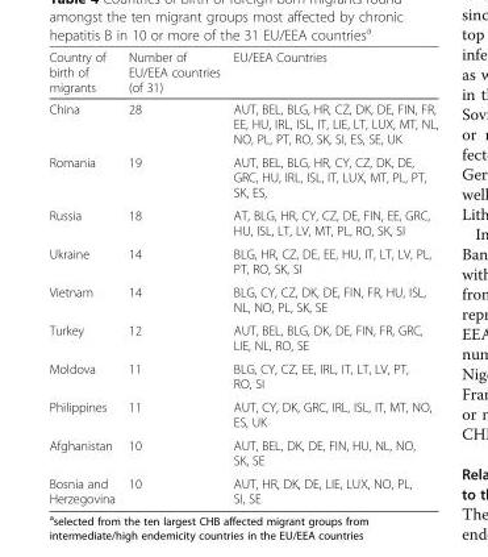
<table><thead><tr><td>Country of birth of migrants</td><td>Number of EU/EEA countries (of 31)</td><td>EU/EEA Countries</td></tr></thead><tbody><tr><td>China</td><td>28</td><td>AUT, BEL, BLG, HR, CZ, DK, DE, FIN, FR, EE, HU, IRL, ISL, IT, LIE, LT, LUX, MT, NL, NO, PL, PT, RO, SK, SI, ES, SE, UK</td></tr><tr><td>Romania</td><td>19</td><td>AUT, BEL, BLG, HR, CY, CZ, DK, DE, GRC, HU, IRL, ISL, IT, LUX, MT, PL, PT, SK, ES,</td></tr><tr><td>Russia</td><td>18</td><td>AT, BLG, HR, CY, CZ, DE, FIN, EE, GRC, HU, ISL, LT, LV, MT, PL, RO, SK, SI</td></tr><tr><td>Ukraine</td><td>14</td><td>BLG, HR, CZ, DE, EE, HU, IT, LT, LV, PL, PT, RO, SK, SI</td></tr><tr><td>Vietnam</td><td>14</td><td>BLG, CY, CZ, DK, DE, FIN, FR, HU, ISL, NL, NO, PL, SK, SE</td></tr><tr><td>Turkey</td><td>12</td><td>AUT, BEL, BLG, DK, DE, FIN, FR, GRC, LIE, NL, RO, SE</td></tr><tr><td>Moldova</td><td>11</td><td>BLG, CY, CZ, EE, IRL, IT, LT, LV, PT, RO, SI</td></tr><tr><td>Philippines</td><td>11</td><td>AUT, CY, DK, GRC, IRL, ISL, IT, MT, NO, ES, UK</td></tr><tr><td>Afghanistan</td><td>10</td><td>AUT, BEL, DK, DE, FIN, HU, NL, NO, SK, SE</td></tr><tr><td>Bosnia and Herzegovina</td><td>10</td><td>AUT, HR, DK, DE, LIE, LUX, NO, PL, SI, SE</td></tr></tbody></table>